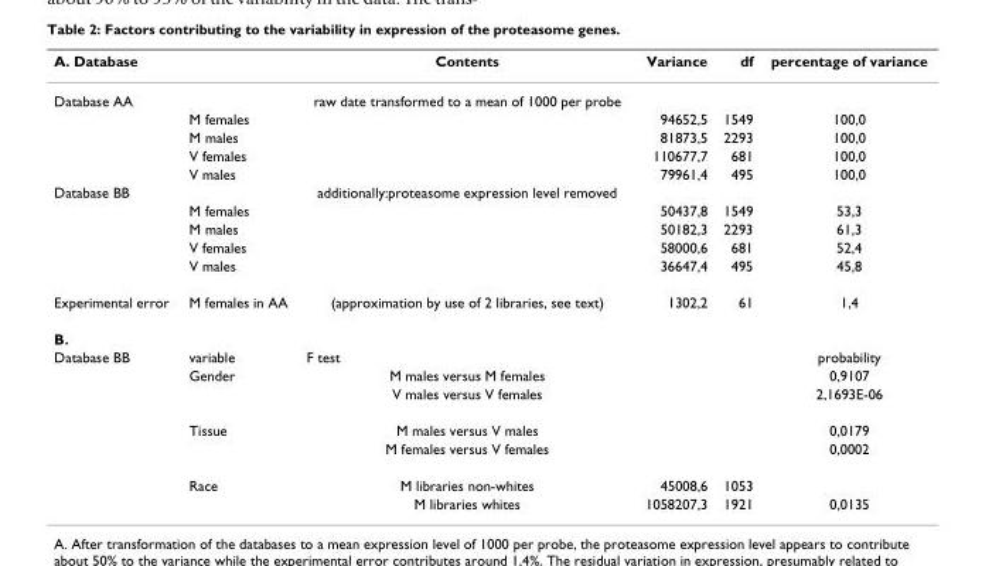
<table><thead><tr><td>A. Database</td><td></td><td>Contents</td><td>Variance</td><td>df</td><td>percentage of variance</td></tr></thead><tbody><tr><td rowspan="5">Database AA</td><td></td><td>raw date transformed to a mean of 1000 per probe</td><td></td><td></td><td></td></tr><tr><td>M females</td><td></td><td>94652,5</td><td>1549</td><td>100,0</td></tr><tr><td>M males</td><td></td><td>81873,5</td><td>2293</td><td>100,0</td></tr><tr><td>V females</td><td></td><td>110677,7</td><td>681</td><td>100,0</td></tr><tr><td>V males</td><td></td><td>79961,4</td><td>495</td><td>100,0</td></tr><tr><td rowspan="5">Database BB</td><td></td><td>additionally:proteasome expression level removed</td><td></td><td></td><td></td></tr><tr><td>M females</td><td></td><td>50437,8</td><td>1549</td><td>53,3</td></tr><tr><td>M males</td><td></td><td>50182,3</td><td>2293</td><td>61,3</td></tr><tr><td>V females</td><td></td><td>58000,6</td><td>681</td><td>52,4</td></tr><tr><td>V males</td><td></td><td>36647,4</td><td>495</td><td>45,8</td></tr><tr><td>Experimental error</td><td>M females in AA</td><td>(approximation by use of 2 libraries, see text)</td><td>1302,2</td><td>61</td><td>1,4</td></tr><tr><td colspan="6">B.</td></tr><tr><td rowspan="7">Database BB</td><td>variable</td><td>F test</td><td></td><td></td><td>probability</td></tr><tr><td>Gender</td><td>M males versus M females</td><td></td><td></td><td>0,9107</td></tr><tr><td></td><td>V males versus V females</td><td></td><td></td><td>2,1693E-06</td></tr><tr><td>Tissue</td><td>M males versus V males</td><td></td><td></td><td>0,0179</td></tr><tr><td></td><td>M females versus V females</td><td></td><td></td><td>0,0002</td></tr><tr><td>Race</td><td>M libraries non-whites</td><td>45008,6</td><td>1053</td><td></td></tr><tr><td></td><td>M libraries whites</td><td>1058207,3</td><td>1921</td><td>0,0135</td></tr></tbody></table>